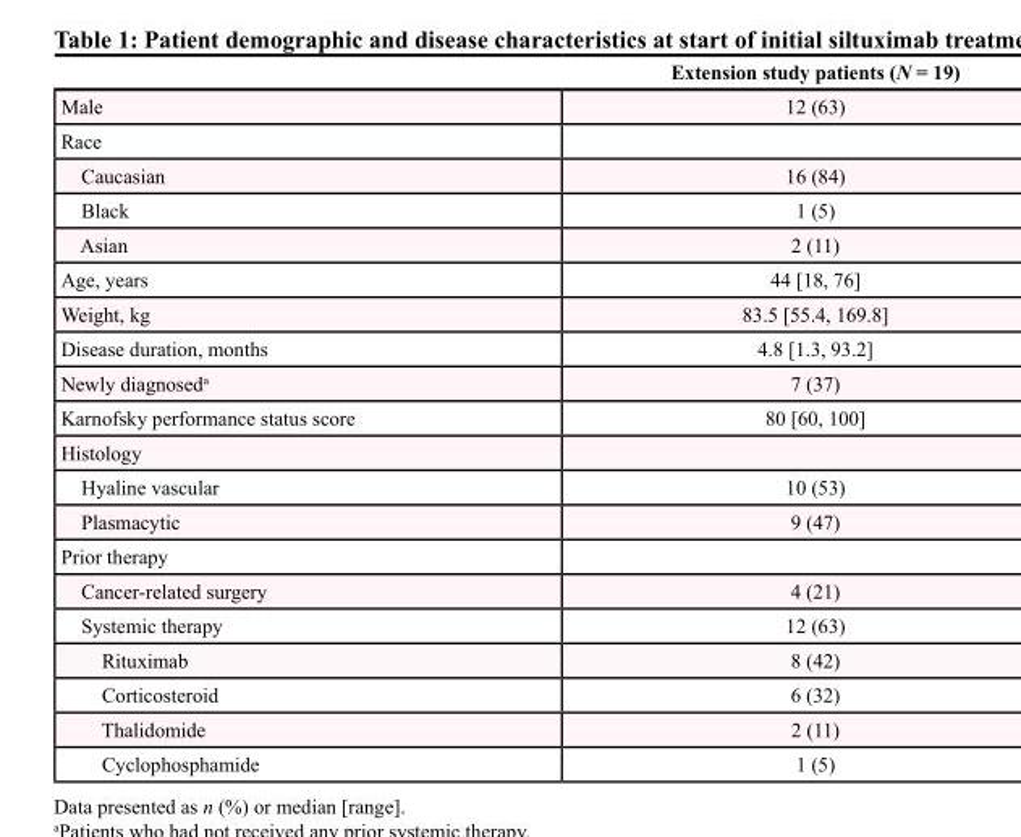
<table><thead><tr><td></td><td>Extension study patients (N = 19)</td></tr></thead><tbody><tr><td>Male</td><td>12 (63)</td></tr><tr><td colspan="2">Race</td></tr><tr><td>Caucasian</td><td>16 (84)</td></tr><tr><td>Black</td><td>1 (5)</td></tr><tr><td>Asian</td><td>2 (11)</td></tr><tr><td>Age, years</td><td>44 [18, 76]</td></tr><tr><td>Weight, kg</td><td>83.5 [55.4, 169.8]</td></tr><tr><td>Disease duration, months</td><td>4.8 [1.3, 93.2]</td></tr><tr><td>Newly diagnosed<sup>a</sup></td><td>7 (37)</td></tr><tr><td>Karnofsky performance status score</td><td>80 [60, 100]</td></tr><tr><td colspan="2">Histology</td></tr><tr><td>Hyaline vascular</td><td>10 (53)</td></tr><tr><td>Plasmacytic</td><td>9 (47)</td></tr><tr><td colspan="2">Prior therapy</td></tr><tr><td>Cancer-related surgery</td><td>4 (21)</td></tr><tr><td>Systemic therapy</td><td>12 (63)</td></tr><tr><td>Rituximab</td><td>8 (42)</td></tr><tr><td>Corticosteroid</td><td>6 (32)</td></tr><tr><td>Thalidomide</td><td>2 (11)</td></tr><tr><td>Cyclophosphamide</td><td>1 (5)</td></tr></tbody></table>